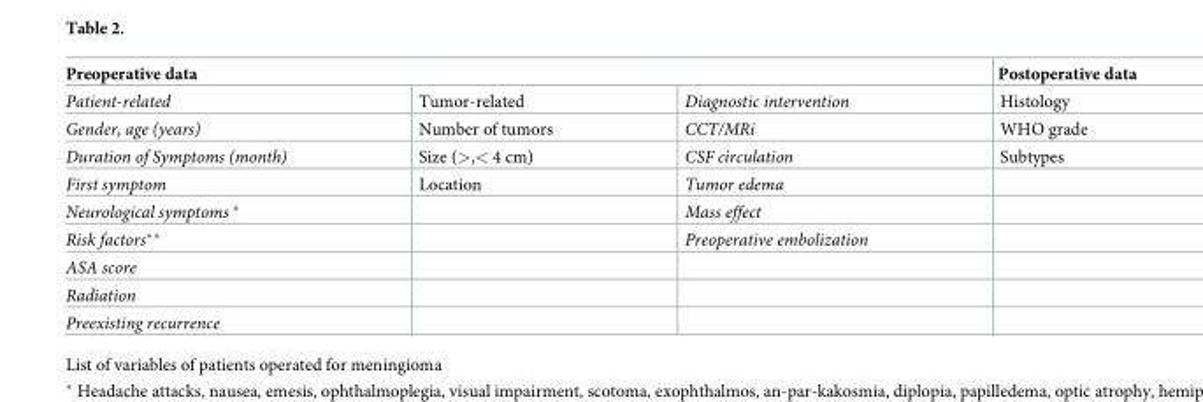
<table><thead><tr><td colspan="3">Preoperative data</td><td rowspan="2">Postoperative data Histology</td></tr><tr><td>Patient-related</td><td>Tumor-related</td><td>Diagnostic intervention</td></tr></thead><tbody><tr><td>Gender, age (years)</td><td>Number of tumors</td><td>CCT/MRi</td><td>WHO grade</td></tr><tr><td>Duration of Symptoms (month)</td><td>Size (&gt;,&lt; 4 cm)</td><td>CSF circulation</td><td>Subtypes</td></tr><tr><td>First symptom</td><td>Location</td><td>Tumor edema</td><td></td></tr><tr><td>Neurological symptoms *</td><td></td><td>Mass effect</td><td></td></tr><tr><td>Risk factors**</td><td></td><td>Preoperative embolization</td><td></td></tr><tr><td colspan="4">ASA score</td></tr><tr><td colspan="4">Radiation</td></tr><tr><td>Preexisting recurrence</td><td></td><td></td><td></td></tr></tbody></table>